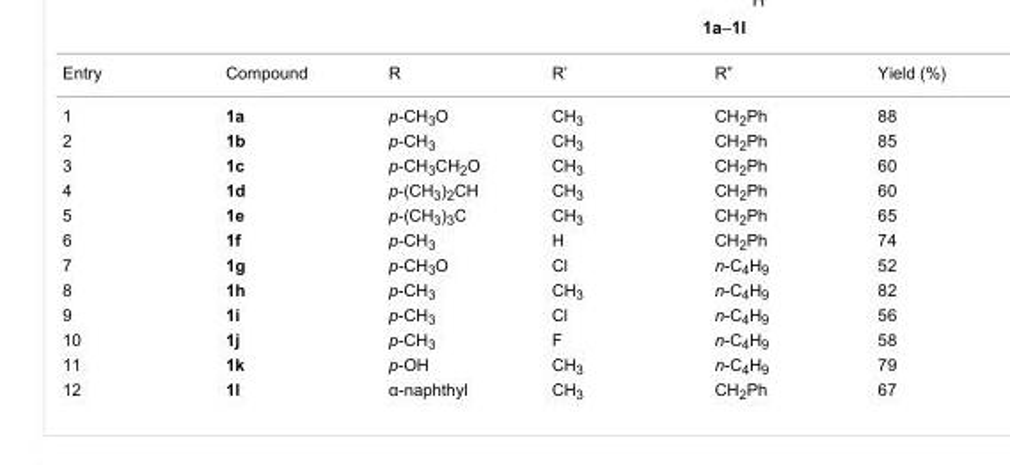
<table><tbody><tr><td>Entry</td><td>Compound</td><td>R</td><td>R’</td><td>R”</td><td>Yield (%)</td></tr><tr><td>1</td><td>1a</td><td>p-CH<sub>3</sub>O</td><td>CH<sub>3</sub></td><td>CH<sub>2</sub>Ph</td><td>88</td></tr><tr><td>2</td><td>1b</td><td>p-CH<sub>3</sub></td><td>CH<sub>3</sub></td><td>CH<sub>2</sub>Ph</td><td>85</td></tr><tr><td>3</td><td>1c</td><td>p-CH<sub>3</sub>CH<sub>2</sub>O</td><td>CH<sub>3</sub></td><td>CH<sub>2</sub>Ph</td><td>60</td></tr><tr><td>4</td><td>1d</td><td>p-(CH<sub>3</sub>)<sub>2</sub>CH</td><td>CH<sub>3</sub></td><td>CH<sub>2</sub>Ph</td><td>60</td></tr><tr><td>5</td><td>1e</td><td>p-(CH<sub>3</sub>)<sub>3</sub>C</td><td>CH<sub>3</sub></td><td>CH<sub>2</sub>Ph</td><td>65</td></tr><tr><td>6</td><td>1f</td><td>p-CH<sub>3</sub></td><td>H</td><td>CH<sub>2</sub>Ph</td><td>74</td></tr><tr><td>7</td><td>1g</td><td>p-CH<sub>3</sub>O</td><td>Cl</td><td>n-C<sub>4</sub>H<sub>9</sub></td><td>52</td></tr><tr><td>8</td><td>1h</td><td>p-CH<sub>3</sub></td><td>CH<sub>3</sub></td><td>n-C<sub>4</sub>H<sub>9</sub></td><td>82</td></tr><tr><td>9</td><td>1i</td><td>p-CH<sub>3</sub></td><td>Cl</td><td>n-C<sub>4</sub>H<sub>9</sub></td><td>56</td></tr><tr><td>10</td><td>1j</td><td>p-CH<sub>3</sub></td><td>F</td><td>n-C<sub>4</sub>H<sub>9</sub></td><td>58</td></tr><tr><td>11</td><td>1k</td><td>p-OH</td><td>CH<sub>3</sub></td><td>n-C<sub>4</sub>H<sub>9</sub></td><td>79</td></tr><tr><td>12</td><td>1l</td><td>α-naphthyl</td><td>CH<sub>3</sub></td><td>CH<sub>2</sub>Ph</td><td>67</td></tr></tbody></table>